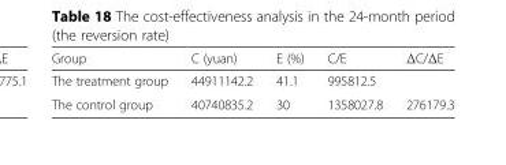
<table><thead><tr><td>Group</td><td>C (yuan)</td><td>E (%)</td><td>C/E</td><td>ΔC/ΔE</td></tr></thead><tbody><tr><td>The treatment group</td><td>44911142.2</td><td>41.1</td><td>995812.5</td><td></td></tr><tr><td>The control group</td><td>40740835.2</td><td>30</td><td>1358027.8</td><td>276179.3</td></tr></tbody></table>